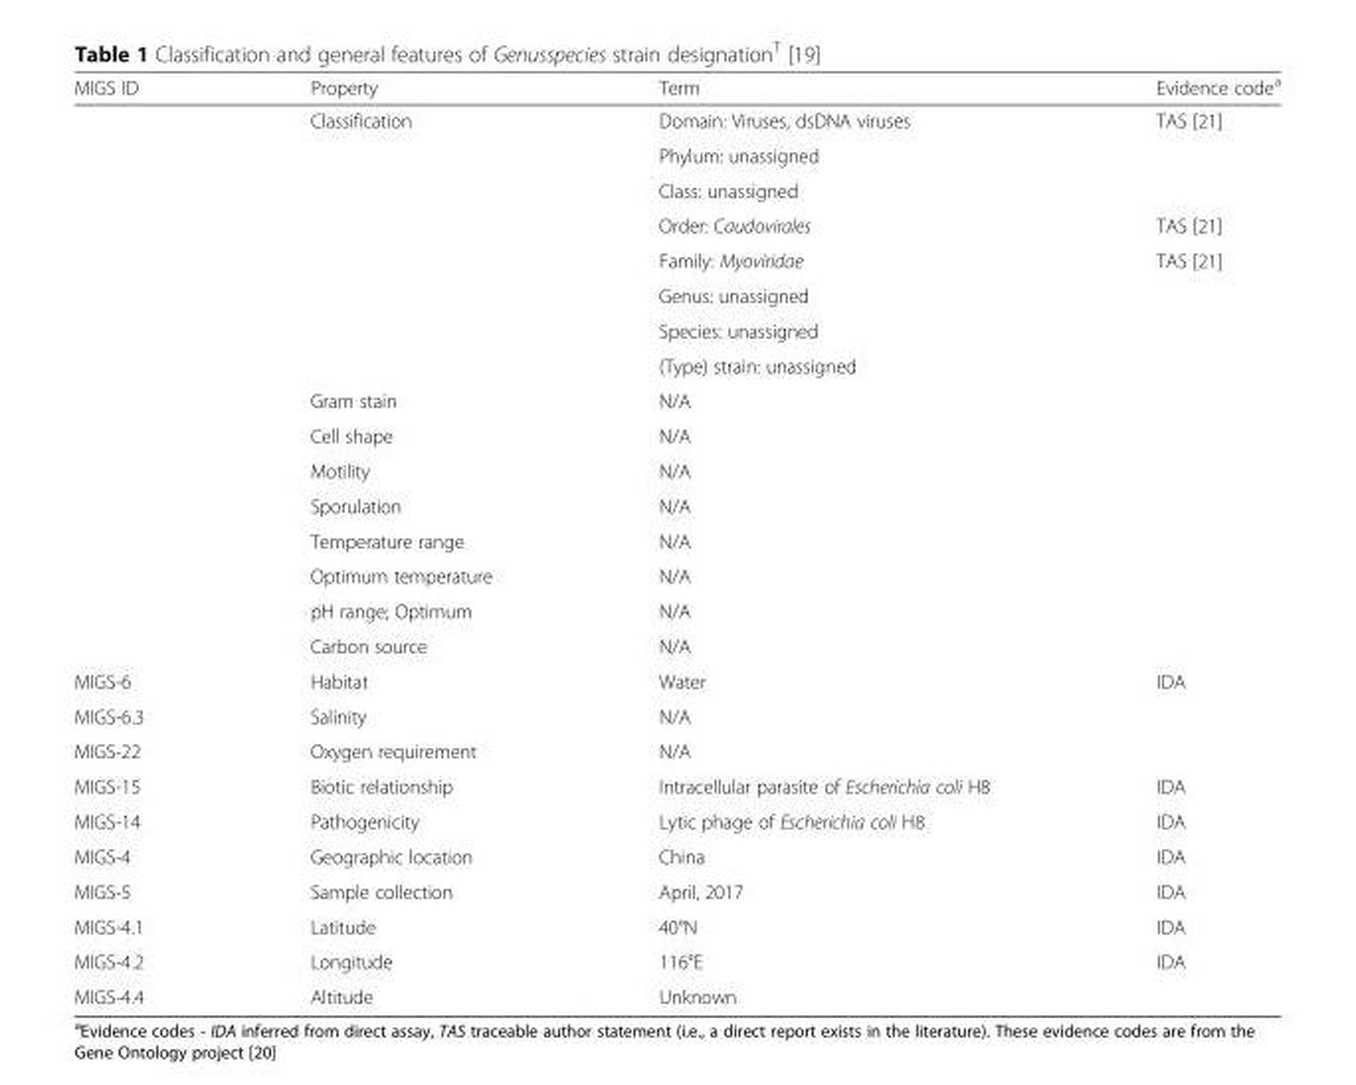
<table><thead><tr><td>MIGS ID</td><td>Property</td><td>Term</td><td>Evidence code<sup>a</sup></td></tr></thead><tbody><tr><td></td><td>Classification</td><td>Domain: Viruses, dsDNA viruses</td><td>TAS [21]</td></tr><tr><td></td><td></td><td>Phylum: unassigned</td><td></td></tr><tr><td></td><td></td><td>Class: unassigned</td><td></td></tr><tr><td></td><td></td><td>Order: Caudovirales</td><td>TAS [21]</td></tr><tr><td></td><td></td><td>Family: Myoviridae</td><td>TAS [21]</td></tr><tr><td></td><td></td><td>Genus: unassigned</td><td></td></tr><tr><td></td><td></td><td>Species: unassigned</td><td></td></tr><tr><td></td><td></td><td>(Type) strain: unassigned</td><td></td></tr><tr><td></td><td>Gram stain</td><td>N/A</td><td></td></tr><tr><td></td><td>Cell shape</td><td>N/A</td><td></td></tr><tr><td></td><td>Motility</td><td>N/A</td><td></td></tr><tr><td></td><td>Sporulation</td><td>N/A</td><td></td></tr><tr><td></td><td>Temperature range</td><td>N/A</td><td></td></tr><tr><td></td><td>Optimum temperature</td><td>N/A</td><td></td></tr><tr><td></td><td>pH range; Optimum</td><td>N/A</td><td></td></tr><tr><td></td><td>Carbon source</td><td>N/A</td><td></td></tr><tr><td>MIGS-6</td><td>Habitat</td><td>Water</td><td>IDA</td></tr><tr><td>MIGS-6.3</td><td>Salinity</td><td>N/A</td><td></td></tr><tr><td>MIGS-22</td><td>Oxygen requirement</td><td>N/A</td><td></td></tr><tr><td>MIGS-15</td><td>Biotic relationship</td><td>Intracellular parasite of Escherichia coli H8</td><td>IDA</td></tr><tr><td>MIGS-14</td><td>Pathogenicity</td><td>Lytic phage of Escherichia coli H8</td><td>IDA</td></tr><tr><td>MIGS-4</td><td>Geographic location</td><td>China</td><td>IDA</td></tr><tr><td>MIGS-5</td><td>Sample collection</td><td>April, 2017</td><td>IDA</td></tr><tr><td>MIGS-4.1</td><td>Latitude</td><td>40°N</td><td>IDA</td></tr><tr><td>MIGS-4.2</td><td>Longitude</td><td>116°E</td><td>IDA</td></tr><tr><td>MIGS-4.4</td><td>Altitude</td><td>Unknown</td><td></td></tr></tbody></table>